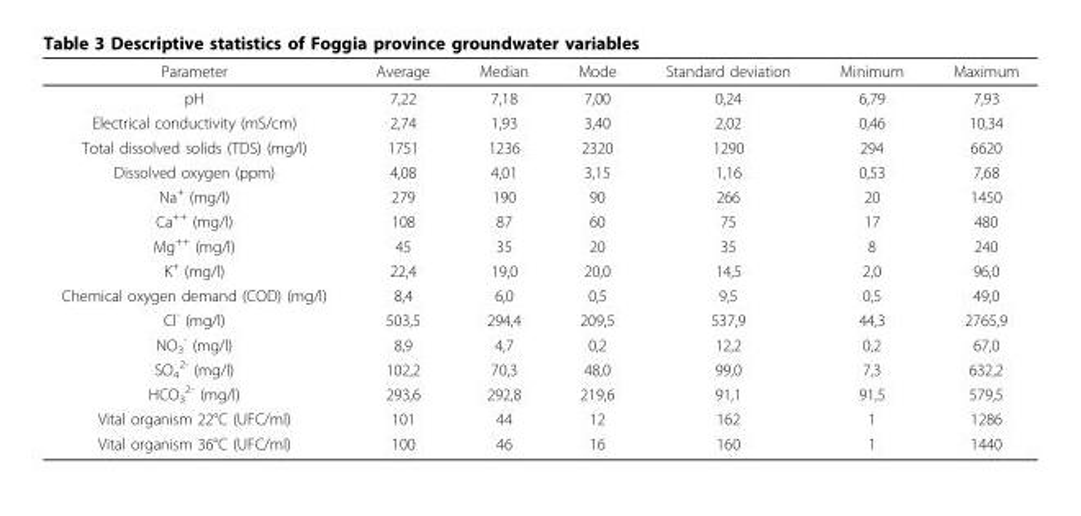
<table><thead><tr><td>Parameter</td><td>Average</td><td>Median</td><td>Mode</td><td>Standard deviation</td><td>Minimum</td><td>Maximum</td></tr></thead><tbody><tr><td>pH</td><td>7,22</td><td>7,18</td><td>7,00</td><td>0,24</td><td>6,79</td><td>7,93</td></tr><tr><td>Electrical conductivity (mS/cm)</td><td>2,74</td><td>1,93</td><td>3,40</td><td>2,02</td><td>0,46</td><td>10,34</td></tr><tr><td>Total dissolved solids (TDS) (mg/l)</td><td>1751</td><td>1236</td><td>2320</td><td>1290</td><td>294</td><td>6620</td></tr><tr><td>Dissolved oxygen (ppm)</td><td>4,08</td><td>4,01</td><td>3,15</td><td>1,16</td><td>0,53</td><td>7,68</td></tr><tr><td>Na<sup>+</sup> (mg/l)</td><td>279</td><td>190</td><td>90</td><td>266</td><td>20</td><td>1450</td></tr><tr><td>Ca<sup>++</sup> (mg/l)</td><td>108</td><td>87</td><td>60</td><td>75</td><td>17</td><td>480</td></tr><tr><td>Mg<sup>++</sup> (mg/l)</td><td>45</td><td>35</td><td>20</td><td>35</td><td>8</td><td>240</td></tr><tr><td>K<sup>+</sup> (mg/l)</td><td>22,4</td><td>19,0</td><td>20,0</td><td>14,5</td><td>2,0</td><td>96,0</td></tr><tr><td>Chemical oxygen demand (COD) (mg/l)</td><td>8,4</td><td>6,0</td><td>0,5</td><td>9,5</td><td>0,5</td><td>49,0</td></tr><tr><td>Cl<sup>-</sup> (mg/l)</td><td>503,5</td><td>294,4</td><td>209,5</td><td>537,9</td><td>44,3</td><td>2765,9</td></tr><tr><td>NO<sub>3</sub> <sup>-</sup> (mg/l)</td><td>8,9</td><td>4,7</td><td>0,2</td><td>12,2</td><td>0,2</td><td>67,0</td></tr><tr><td>SO<sub>4</sub> <sup>2-</sup> (mg/l)</td><td>102,2</td><td>70,3</td><td>48,0</td><td>99,0</td><td>7,3</td><td>632,2</td></tr><tr><td>HCO<sub>3</sub> <sup>2-</sup> (mg/l)</td><td>293,6</td><td>292,8</td><td>219,6</td><td>91,1</td><td>91,5</td><td>579,5</td></tr><tr><td>Vital organism 22°C (UFC/ml)</td><td>101</td><td>44</td><td>12</td><td>162</td><td>1</td><td>1286</td></tr><tr><td>Vital organism 36°C (UFC/ml)</td><td>100</td><td>46</td><td>16</td><td>160</td><td>1</td><td>1440</td></tr></tbody></table>